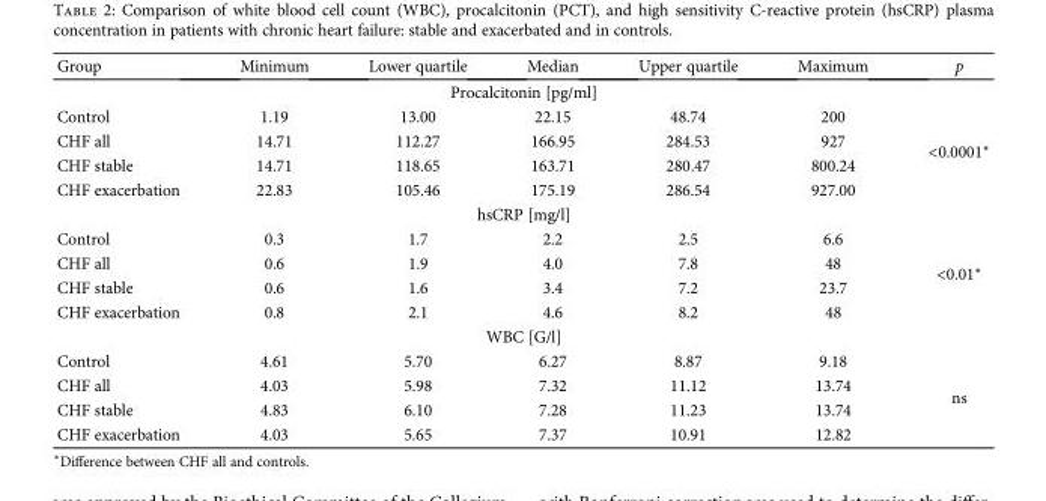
<table><thead><tr><td>Group</td><td>Minimum</td><td>Lower quartile</td><td>Median</td><td>Upper quartile</td><td>Maximum</td><td>p</td></tr></thead><tbody><tr><td colspan="7">Procalcitonin [pg/ml]</td></tr><tr><td>Control</td><td>1.19</td><td>13.00</td><td>22.15</td><td>48.74</td><td>200</td><td rowspan="4">&lt;0.0001∗</td></tr><tr><td>CHF all</td><td>14.71</td><td>112.27</td><td>166.95</td><td>284.53</td><td>927</td></tr><tr><td>CHF stable</td><td>14.71</td><td>118.65</td><td>163.71</td><td>280.47</td><td>800.24</td></tr><tr><td>CHF exacerbation</td><td>22.83</td><td>105.46</td><td>175.19</td><td>286.54</td><td>927.00</td></tr><tr><td colspan="7">hsCRP [mg/l]</td></tr><tr><td>Control</td><td>0.3</td><td>1.7</td><td>2.2</td><td>2.5</td><td>6.6</td><td rowspan="4">&lt;0.01∗</td></tr><tr><td>CHF all</td><td>0.6</td><td>1.9</td><td>4.0</td><td>7.8</td><td>48</td></tr><tr><td>CHF stable</td><td>0.6</td><td>1.6</td><td>3.4</td><td>7.2</td><td>23.7</td></tr><tr><td>CHF exacerbation</td><td>0.8</td><td>2.1</td><td>4.6</td><td>8.2</td><td>48</td></tr><tr><td colspan="7">WBC [G/l]</td></tr><tr><td>Control</td><td>4.61</td><td>5.70</td><td>6.27</td><td>8.87</td><td>9.18</td><td rowspan="4">ns</td></tr><tr><td>CHF all</td><td>4.03</td><td>5.98</td><td>7.32</td><td>11.12</td><td>13.74</td></tr><tr><td>CHF stable</td><td>4.83</td><td>6.10</td><td>7.28</td><td>11.23</td><td>13.74</td></tr><tr><td>CHF exacerbation</td><td>4.03</td><td>5.65</td><td>7.37</td><td>10.91</td><td>12.82</td></tr></tbody></table>